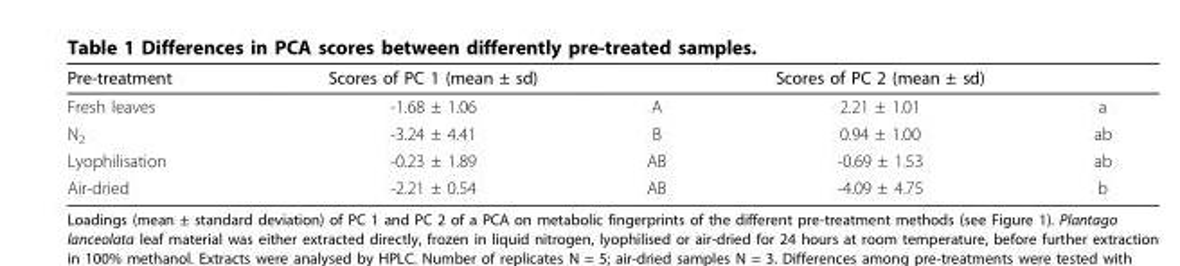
<table><thead><tr><td>Pre-treatment</td><td>Scores of PC 1 (mean ± sd)</td><td></td><td>Scores of PC 2 (mean ± sd)</td><td></td></tr></thead><tbody><tr><td>Fresh leaves</td><td>-1.68 ± 1.06</td><td>A</td><td>2.21 ± 1.01</td><td>a</td></tr><tr><td>N<sub>2</sub></td><td>-3.24 ± 4.41</td><td>B</td><td>0.94 ± 1.00</td><td>ab</td></tr><tr><td>Lyophilisation</td><td>-0.23 ± 1.89</td><td>AB</td><td>-0.69 ± 1.53</td><td>ab</td></tr><tr><td>Air-dried</td><td>-2.21 ± 0.54</td><td>AB</td><td>-4.09 ± 4.75</td><td>b</td></tr></tbody></table>